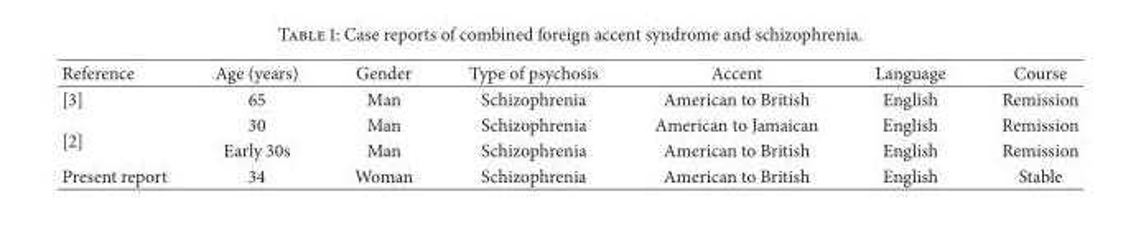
<table><thead><tr><td>Reference</td><td>Age (years)</td><td>Gender</td><td>Type of psychosis</td><td>Accent</td><td>Language</td><td>Course</td></tr></thead><tbody><tr><td>[3]</td><td>65</td><td>Man</td><td>Schizophrenia</td><td>American to British</td><td>English</td><td>Remission</td></tr><tr><td rowspan="2">[2]</td><td>30</td><td>Man</td><td>Schizophrenia</td><td>American to Jamaican</td><td>English</td><td>Remission</td></tr><tr><td>Early 30s</td><td>Man</td><td>Schizophrenia</td><td>American to British</td><td>English</td><td>Remission</td></tr><tr><td>Present report</td><td>34</td><td>Woman</td><td>Schizophrenia</td><td>American to British</td><td>English</td><td>Stable</td></tr></tbody></table>